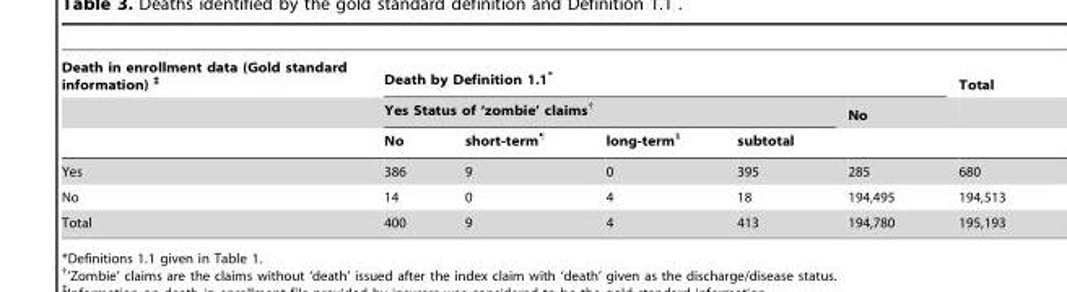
<table><thead><tr><td rowspan="3">Death in enrollment data (Gold standard information) ‡</td><td colspan="5">Death by Definition 1.1*</td><td rowspan="3">Total</td></tr><tr><td colspan="4">Yes Status of ‘zombie’ claims†</td><td rowspan="2">No</td></tr><tr><td>No</td><td>short-term¶</td><td>long-term§</td><td>subtotal</td></tr></thead><tbody><tr><td>Yes</td><td>386</td><td>9</td><td>0</td><td>395</td><td>285</td><td>680</td></tr><tr><td>No</td><td>14</td><td>0</td><td>4</td><td>18</td><td>194,495</td><td>194,513</td></tr><tr><td>Total</td><td>400</td><td>9</td><td>4</td><td>413</td><td>194,780</td><td>195,193</td></tr></tbody></table>